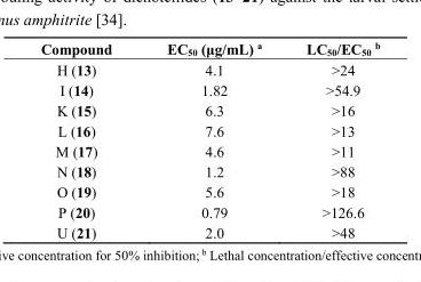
<table><thead><tr><td>Compound</td><td>EC<sub>50</sub> (μg/mL) <sup>a</sup></td><td>LC<sub>50</sub>/EC<sub>50</sub> <sup>b</sup></td></tr></thead><tbody><tr><td>H (13)</td><td>4.1</td><td>&gt;24</td></tr><tr><td>I (14)</td><td>1.82</td><td>&gt;54.9</td></tr><tr><td>K (15)</td><td>6.3</td><td>&gt;16</td></tr><tr><td>L (16)</td><td>7.6</td><td>&gt;13</td></tr><tr><td>M (17)</td><td>4.6</td><td>&gt;11</td></tr><tr><td>N (18)</td><td>1.2</td><td>&gt;88</td></tr><tr><td>O (19)</td><td>5.6</td><td>&gt;18</td></tr><tr><td>P (20)</td><td>0.79</td><td>&gt;126.6</td></tr><tr><td>U (21)</td><td>2.0</td><td>&gt;48</td></tr></tbody></table>